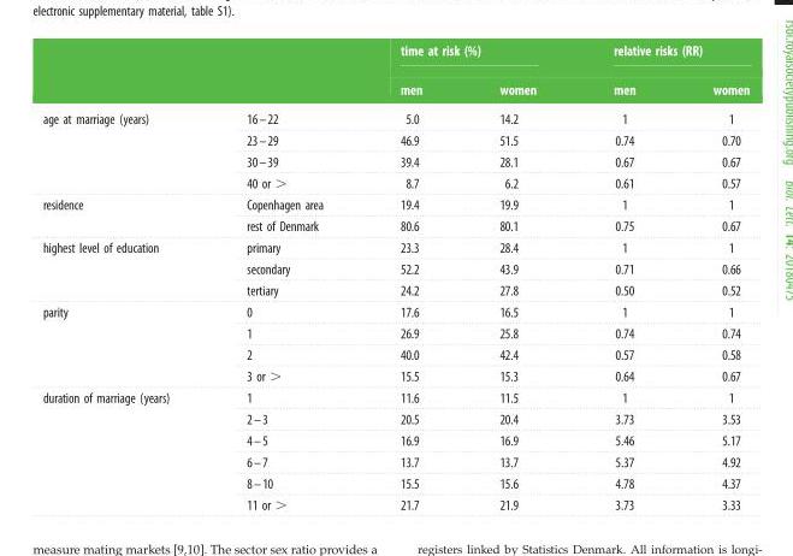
<table><thead><tr><td rowspan="2"></td><td rowspan="2"></td><td colspan="2">time at risk (%)</td><td colspan="2">relative risks (RR)</td></tr><tr><td>men</td><td>women</td><td>men</td><td>women</td></tr></thead><tbody><tr><td rowspan="4">age at marriage (years)</td><td>16–22</td><td>5.0</td><td>14.2</td><td>1</td><td>1</td></tr><tr><td>23–29</td><td>46.9</td><td>51.5</td><td>0.74</td><td>0.70</td></tr><tr><td>30–39</td><td>39.4</td><td>28.1</td><td>0.67</td><td>0.67</td></tr><tr><td>40 or &gt;</td><td>8.7</td><td>6.2</td><td>0.61</td><td>0.57</td></tr><tr><td rowspan="2">residence</td><td>Copenhagen area</td><td>19.4</td><td>19.9</td><td>1</td><td>1</td></tr><tr><td>rest of Denmark</td><td>80.6</td><td>80.1</td><td>0.75</td><td>0.67</td></tr><tr><td rowspan="3">highest level of education</td><td>primary</td><td>23.3</td><td>28.4</td><td>1</td><td>1</td></tr><tr><td>secondary</td><td>52.2</td><td>43.9</td><td>0.71</td><td>0.66</td></tr><tr><td>tertiary</td><td>24.2</td><td>27.8</td><td>0.50</td><td>0.52</td></tr><tr><td rowspan="4">parity</td><td>0</td><td>17.6</td><td>16.5</td><td>1</td><td>1</td></tr><tr><td>1</td><td>26.9</td><td>25.8</td><td>0.74</td><td>0.74</td></tr><tr><td>2</td><td>40.0</td><td>42.4</td><td>0.57</td><td>0.58</td></tr><tr><td>3 or &gt;</td><td>15.5</td><td>15.3</td><td>0.64</td><td>0.67</td></tr><tr><td rowspan="6">duration of marriage (years)</td><td>1</td><td>11.6</td><td>11.5</td><td>1</td><td>1</td></tr><tr><td>2–3</td><td>20.5</td><td>20.4</td><td>3.73</td><td>3.53</td></tr><tr><td>4–5</td><td>16.9</td><td>16.9</td><td>5.46</td><td>5.17</td></tr><tr><td>6–7</td><td>13.7</td><td>13.7</td><td>5.37</td><td>4.92</td></tr><tr><td>8–10</td><td>15.5</td><td>15.6</td><td>4.78</td><td>4.37</td></tr><tr><td>11 or &gt;</td><td>21.7</td><td>21.9</td><td>3.73</td><td>3.33</td></tr></tbody></table>